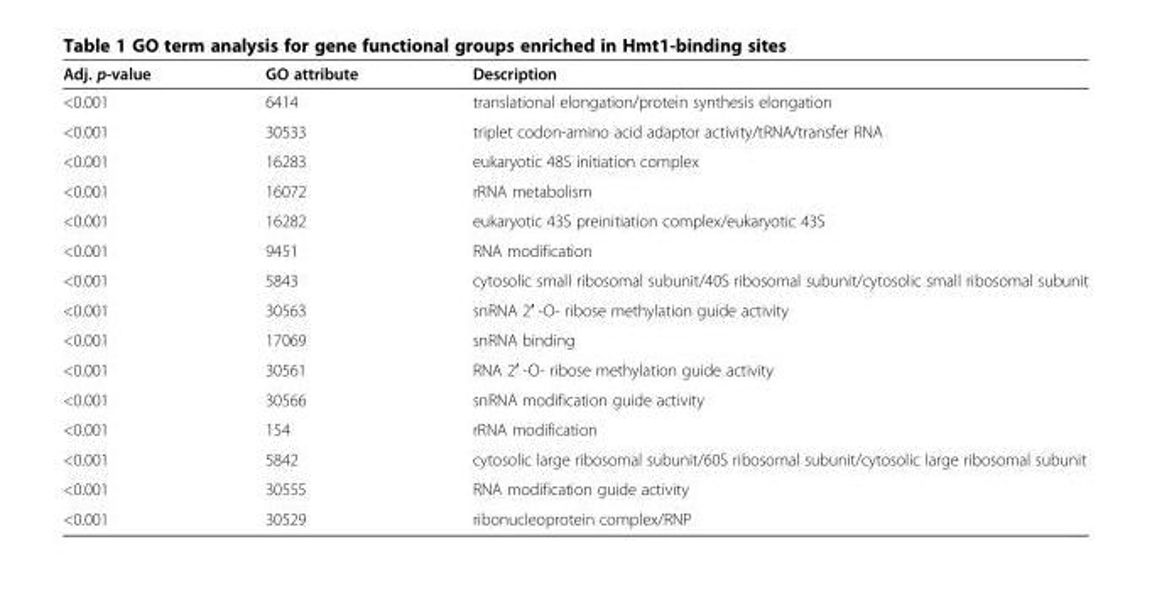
<table><thead><tr><td>Adj. p-value</td><td>GO attribute</td><td>Description</td></tr></thead><tbody><tr><td>&lt;0.001</td><td>6414</td><td>translational elongation/protein synthesis elongation</td></tr><tr><td>&lt;0.001</td><td>30533</td><td>triplet codon-amino acid adaptor activity/tRNA/transfer RNA</td></tr><tr><td>&lt;0.001</td><td>16283</td><td>eukaryotic 48S initiation complex</td></tr><tr><td>&lt;0.001</td><td>16072</td><td>rRNA metabolism</td></tr><tr><td>&lt;0.001</td><td>16282</td><td>eukaryotic 43S preinitiation complex/eukaryotic 43S</td></tr><tr><td>&lt;0.001</td><td>9451</td><td>RNA modification</td></tr><tr><td>&lt;0.001</td><td>5843</td><td>cytosolic small ribosomal subunit/40S ribosomal subunit/cytosolic small ribosomal subunit</td></tr><tr><td>&lt;0.001</td><td>30563</td><td>snRNA 2′ -O- ribose methylation guide activity</td></tr><tr><td>&lt;0.001</td><td>17069</td><td>snRNA binding</td></tr><tr><td>&lt;0.001</td><td>30561</td><td>RNA 2′ -O- ribose methylation guide activity</td></tr><tr><td>&lt;0.001</td><td>30566</td><td>snRNA modification guide activity</td></tr><tr><td>&lt;0.001</td><td>154</td><td>rRNA modification</td></tr><tr><td>&lt;0.001</td><td>5842</td><td>cytosolic large ribosomal subunit/60S ribosomal subunit/cytosolic large ribosomal subunit</td></tr><tr><td>&lt;0.001</td><td>30555</td><td>RNA modification guide activity</td></tr><tr><td>&lt;0.001</td><td>30529</td><td>ribonucleoprotein complex/RNP</td></tr></tbody></table>